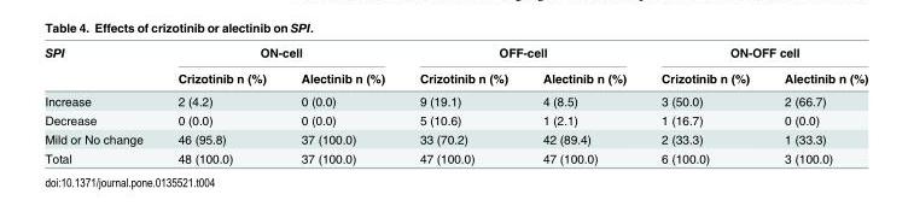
<table><thead><tr><td rowspan="2">SPI</td><td colspan="2">ON-cell</td><td colspan="2">OFF-cell</td><td colspan="2">ON-OFF cell</td></tr><tr><td>Crizotinib n (%)</td><td>Alectinib n (%)</td><td>Crizotinib n (%)</td><td>Alectinib n (%)</td><td>Crizotinib n (%)</td><td>Alectinib n (%)</td></tr></thead><tbody><tr><td>Increase</td><td>2 (4.2)</td><td>0 (0.0)</td><td>9 (19.1)</td><td>4 (8.5)</td><td>3 (50.0)</td><td>2 (66.7)</td></tr><tr><td>Decrease</td><td>0 (0.0)</td><td>0 (0.0)</td><td>5 (10.6)</td><td>1 (2.1)</td><td>1 (16.7)</td><td>0 (0.0)</td></tr><tr><td>Mild or No change</td><td>46 (95.8)</td><td>37 (100.0)</td><td>33 (70.2)</td><td>42 (89.4)</td><td>2 (33.3)</td><td>1 (33.3)</td></tr><tr><td>Total</td><td>48 (100.0)</td><td>37 (100.0)</td><td>47 (100.0)</td><td>47 (100.0)</td><td>6 (100.0)</td><td>3 (100.0)</td></tr></tbody></table>